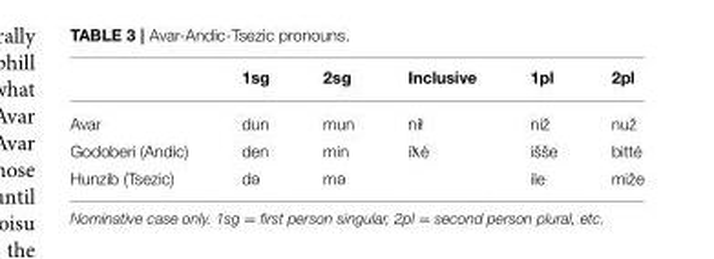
<table><thead><tr><td></td><td>1sg</td><td>2sg</td><td>Inclusive</td><td>1pl</td><td>2pl</td></tr></thead><tbody><tr><td>Avar</td><td>dun</td><td>mun</td><td>nił</td><td>niž</td><td>nuž</td></tr><tr><td>Godoberi (Andic)</td><td>den</td><td>min</td><td>iňé</td><td>išše</td><td>bitté</td></tr><tr><td>Hunzib (Tsezic)</td><td>d e</td><td>m e</td><td></td><td>ile</td><td>miže</td></tr></tbody></table>